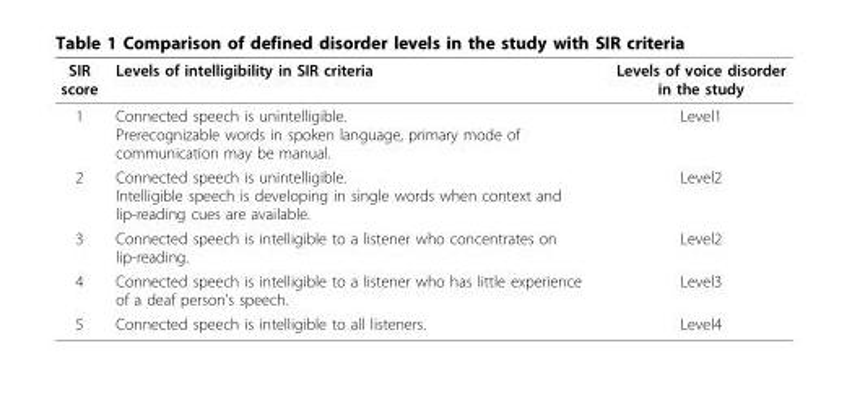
<table><thead><tr><td>SIR score</td><td>Levels of intelligibility in SIR criteria</td><td>Levels of voice disorder in the study</td></tr></thead><tbody><tr><td>1</td><td>Connected speech is unintelligible. Prerecognizable words in spoken language, primary mode of communication may be manual.</td><td>Level1</td></tr><tr><td>2</td><td>Connected speech is unintelligible. Intelligible speech is developing in single words when context and lip-reading cues are available.</td><td>Level2</td></tr><tr><td>3</td><td>Connected speech is intelligible to a listener who concentrates on lip-reading.</td><td>Level2</td></tr><tr><td>4</td><td>Connected speech is intelligible to a listener who has little experience of a deaf person’s speech.</td><td>Level3</td></tr><tr><td>5</td><td>Connected speech is intelligible to all listeners.</td><td>Level4</td></tr></tbody></table>